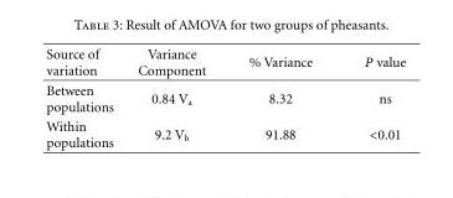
<table><thead><tr><td>Source of variation</td><td>Variance Component</td><td>% Variance</td><td>P value</td></tr></thead><tbody><tr><td>Between populations</td><td>0.84 V<sub>a</sub></td><td>8.32</td><td>ns</td></tr><tr><td>Within populations</td><td>9.2 V<sub>b</sub></td><td>91.88</td><td>&lt;0.01</td></tr></tbody></table>